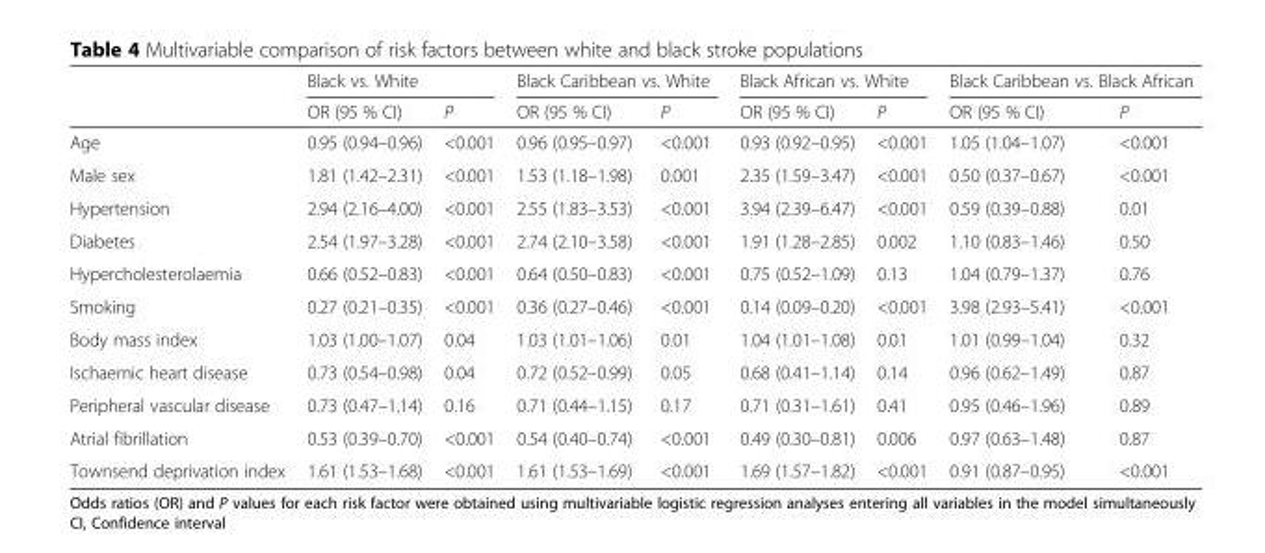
<table><thead><tr><td rowspan="2"></td><td colspan="2">Black vs. White</td><td colspan="2">Black Caribbean vs. White</td><td colspan="2">Black African vs. White</td><td colspan="2">Black Caribbean vs. Black African</td></tr><tr><td>OR (95 % CI)</td><td>P</td><td>OR (95 % CI)</td><td>P</td><td>OR (95 % CI)</td><td>P</td><td>OR (95 % CI)</td><td>P</td></tr></thead><tbody><tr><td>Age</td><td>0.95 (0.94–0.96)</td><td>&lt;0.001</td><td>0.96 (0.95–0.97)</td><td>&lt;0.001</td><td>0.93 (0.92–0.95)</td><td>&lt;0.001</td><td>1.05 (1.04–1.07)</td><td>&lt;0.001</td></tr><tr><td>Male sex</td><td>1.81 (1.42–2.31)</td><td>&lt;0.001</td><td>1.53 (1.18–1.98)</td><td>0.001</td><td>2.35 (1.59–3.47)</td><td>&lt;0.001</td><td>0.50 (0.37–0.67)</td><td>&lt;0.001</td></tr><tr><td>Hypertension</td><td>2.94 (2.16–4.00)</td><td>&lt;0.001</td><td>2.55 (1.83–3.53)</td><td>&lt;0.001</td><td>3.94 (2.39–6.47)</td><td>&lt;0.001</td><td>0.59 (0.39–0.88)</td><td>0.01</td></tr><tr><td>Diabetes</td><td>2.54 (1.97–3.28)</td><td>&lt;0.001</td><td>2.74 (2.10–3.58)</td><td>&lt;0.001</td><td>1.91 (1.28–2.85)</td><td>0.002</td><td>1.10 (0.83–1.46)</td><td>0.50</td></tr><tr><td>Hypercholesterolaemia</td><td>0.66 (0.52–0.83)</td><td>&lt;0.001</td><td>0.64 (0.50–0.83)</td><td>&lt;0.001</td><td>0.75 (0.52–1.09)</td><td>0.13</td><td>1.04 (0.79–1.37)</td><td>0.76</td></tr><tr><td>Smoking</td><td>0.27 (0.21–0.35)</td><td>&lt;0.001</td><td>0.36 (0.27–0.46)</td><td>&lt;0.001</td><td>0.14 (0.09–0.20)</td><td>&lt;0.001</td><td>3.98 (2.93–5.41)</td><td>&lt;0.001</td></tr><tr><td>Body mass index</td><td>1.03 (1.00–1.07)</td><td>0.04</td><td>1.03 (1.01–1.06)</td><td>0.01</td><td>1.04 (1.01–1.08)</td><td>0.01</td><td>1.01 (0.99–1.04)</td><td>0.32</td></tr><tr><td>Ischaemic heart disease</td><td>0.73 (0.54–0.98)</td><td>0.04</td><td>0.72 (0.52–0.99)</td><td>0.05</td><td>0.68 (0.41–1.14)</td><td>0.14</td><td>0.96 (0.62–1.49)</td><td>0.87</td></tr><tr><td>Peripheral vascular disease</td><td>0.73 (0.47–1.14)</td><td>0.16</td><td>0.71 (0.44–1.15)</td><td>0.17</td><td>0.71 (0.31–1.61)</td><td>0.41</td><td>0.95 (0.46–1.96)</td><td>0.89</td></tr><tr><td>Atrial fibrillation</td><td>0.53 (0.39–0.70)</td><td>&lt;0.001</td><td>0.54 (0.40–0.74)</td><td>&lt;0.001</td><td>0.49 (0.30–0.81)</td><td>0.006</td><td>0.97 (0.63–1.48)</td><td>0.87</td></tr><tr><td>Townsend deprivation index</td><td>1.61 (1.53–1.68)</td><td>&lt;0.001</td><td>1.61 (1.53–1.69)</td><td>&lt;0.001</td><td>1.69 (1.57–1.82)</td><td>&lt;0.001</td><td>0.91 (0.87–0.95)</td><td>&lt;0.001</td></tr></tbody></table>